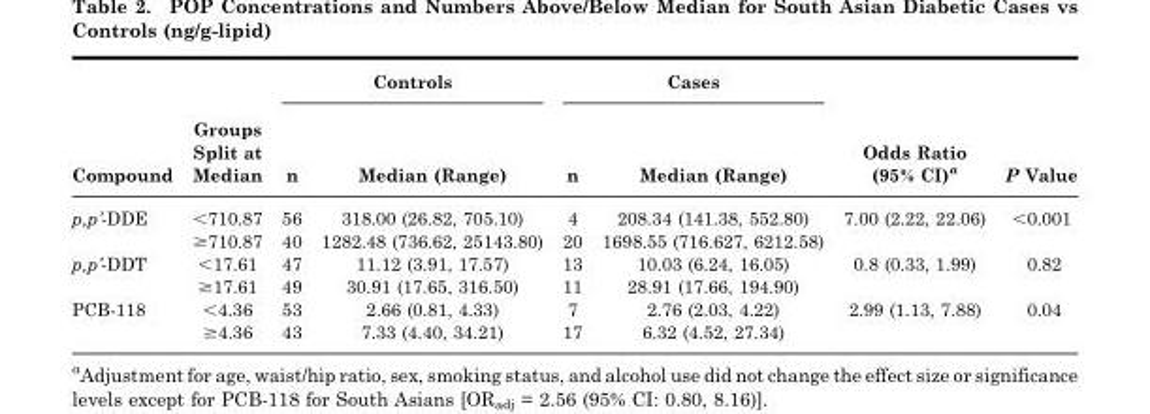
<table><thead><tr><td rowspan="2">Compound</td><td rowspan="2">Groups Split at Median</td><td colspan="2">Controls</td><td colspan="2">Cases</td><td rowspan="2">Odds Ratio (95% CI)<sup>a</sup></td><td rowspan="2">P Value</td></tr><tr><td>n</td><td>Median (Range)</td><td>n</td><td>Median (Range)</td></tr></thead><tbody><tr><td rowspan="2">p,p’-DDE</td><td>&lt;710.87</td><td>56</td><td>318.00 (26.82, 705.10)</td><td>4</td><td>208.34 (141.38, 552.80)</td><td rowspan="2">7.00 (2.22, 22.06)</td><td rowspan="2">&lt;0.001</td></tr><tr><td>≥710.87</td><td>40</td><td>1282.48 (736.62, 25143.80)</td><td>20</td><td>1698.55 (716.627, 6212.58)</td></tr><tr><td rowspan="2">p,p’-DDT</td><td>&lt;17.61</td><td>47</td><td>11.12 (3.91, 17.57)</td><td>13</td><td>10.03 (6.24, 16.05)</td><td rowspan="2">0.8 (0.33, 1.99)</td><td rowspan="2">0.82</td></tr><tr><td>≥17.61</td><td>49</td><td>30.91 (17.65, 316.50)</td><td>11</td><td>28.91 (17.66, 194.90)</td></tr><tr><td rowspan="2">PCB-118</td><td>&lt;4.36</td><td>53</td><td>2.66 (0.81, 4.33)</td><td>7</td><td>2.76 (2.03, 4.22)</td><td rowspan="2">2.99 (1.13, 7.88)</td><td rowspan="2">0.04</td></tr><tr><td>≥4.36</td><td>43</td><td>7.33 (4.40, 34.21)</td><td>17</td><td>6.32 (4.52, 27.34)</td></tr></tbody></table>